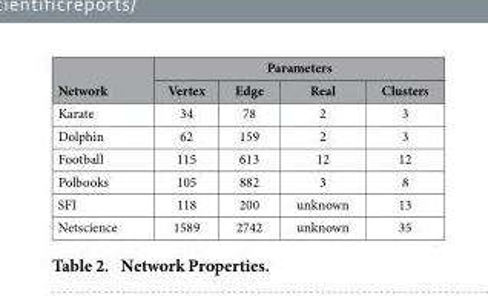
<table><thead><tr><td rowspan="2">Network</td><td colspan="4">Parameters</td></tr><tr><td>Vertex</td><td>Edge</td><td>Real</td><td>Clusters</td></tr></thead><tbody><tr><td>Karate</td><td>34</td><td>78</td><td>2</td><td>3</td></tr><tr><td>Dolphin</td><td>62</td><td>159</td><td>2</td><td>3</td></tr><tr><td>Football</td><td>115</td><td>613</td><td>12</td><td>12</td></tr><tr><td>Polbooks</td><td>105</td><td>882</td><td>3</td><td>8</td></tr><tr><td>SFI</td><td>118</td><td>200</td><td>unknown</td><td>13</td></tr><tr><td>Netscience</td><td>1589</td><td>2742</td><td>unknown</td><td>35</td></tr></tbody></table>